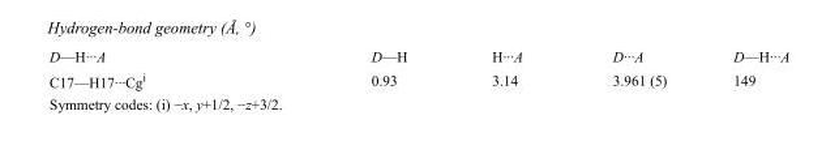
<table><tbody><tr><td>D—H···A</td><td>D—H</td><td>H···A</td><td>D···A</td><td>D—H···A</td></tr><tr><td>C17—H17···Cg<sup>i</sup></td><td>0.93</td><td>3.14</td><td>3.961 (5)</td><td>149</td></tr></tbody></table>